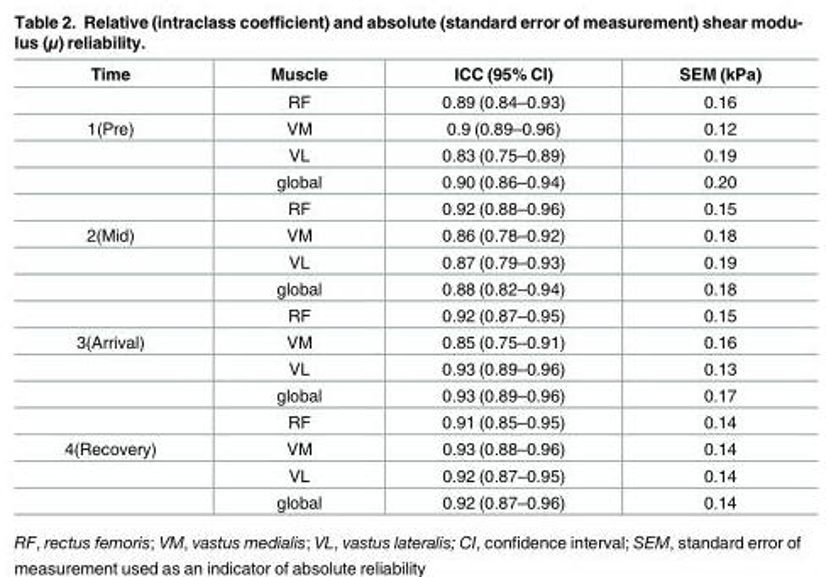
<table><thead><tr><td>Time</td><td>Muscle</td><td>ICC (95% CI)</td><td>SEM (kPa)</td></tr></thead><tbody><tr><td></td><td>RF</td><td>0.89 (0.84–0.93)</td><td>0.16</td></tr><tr><td rowspan="4">1(Pre)</td><td>VM</td><td>0.9 (0.89–0.96)</td><td>0.12</td></tr><tr><td>VL</td><td>0.83 (0.75–0.89)</td><td>0.19</td></tr><tr><td>global</td><td>0.90 (0.86–0.94)</td><td>0.20</td></tr><tr><td>RF</td><td>0.92 (0.88–0.96)</td><td>0.15</td></tr><tr><td rowspan="4">2(Mid)</td><td>VM</td><td>0.86 (0.78–0.92)</td><td>0.18</td></tr><tr><td>VL</td><td>0.87 (0.79–0.93)</td><td>0.19</td></tr><tr><td>global</td><td>0.88 (0.82–0.94)</td><td>0.18</td></tr><tr><td>RF</td><td>0.92 (0.87–0.95)</td><td>0.15</td></tr><tr><td rowspan="4">3(Arrival)</td><td>VM</td><td>0.85 (0.75–0.91)</td><td>0.16</td></tr><tr><td>VL</td><td>0.93 (0.89–0.96)</td><td>0.13</td></tr><tr><td>global</td><td>0.93 (0.89–0.96)</td><td>0.17</td></tr><tr><td>RF</td><td>0.91 (0.85–0.95)</td><td>0.14</td></tr><tr><td rowspan="3">4(Recovery)</td><td>VM</td><td>0.93 (0.88–0.96)</td><td>0.14</td></tr><tr><td>VL</td><td>0.92 (0.87–0.95)</td><td>0.14</td></tr><tr><td>global</td><td>0.92 (0.87–0.96)</td><td>0.14</td></tr></tbody></table>